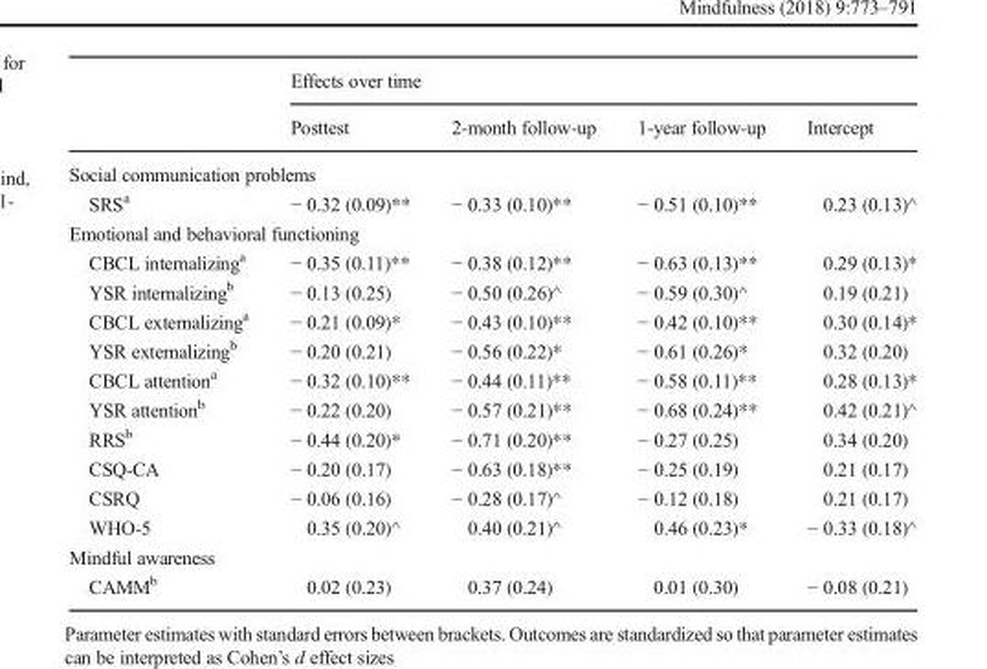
<table><thead><tr><td rowspan="2"></td><td colspan="4">Effects over time</td></tr><tr><td>Posttest</td><td>2-month follow-up</td><td>1-year follow-up</td><td>Intercept</td></tr></thead><tbody><tr><td colspan="5">Social communication problems</td></tr><tr><td>SRS<sup>a</sup></td><td>− 0.32 (0.09)**</td><td>− 0.33 (0.10)**</td><td>− 0.51 (0.10)**</td><td>0.23 (0.13)^</td></tr><tr><td colspan="5">Emotional and behavioral functioning</td></tr><tr><td>CBCL internalizing<sup>a</sup></td><td>− 0.35 (0.11)**</td><td>− 0.38 (0.12)**</td><td>− 0.63 (0.13)**</td><td>0.29 (0.13)*</td></tr><tr><td>YSR internalizing<sup>b</sup></td><td>− 0.13 (0.25)</td><td>− 0.50 (0.26)^</td><td>− 0.59 (0.30)^</td><td>0.19 (0.21)</td></tr><tr><td>CBCL externalizing<sup>a</sup></td><td>− 0.21 (0.09)*</td><td>− 0.43 (0.10)**</td><td>− 0.42 (0.10)**</td><td>0.30 (0.14)*</td></tr><tr><td>YSR externalizing<sup>b</sup></td><td>− 0.20 (0.21)</td><td>− 0.56 (0.22)*</td><td>− 0.61 (0.26)*</td><td>0.32 (0.20)</td></tr><tr><td>CBCL attention<sup>a</sup></td><td>− 0.32 (0.10)**</td><td>− 0.44 (0.11)**</td><td>− 0.58 (0.11)**</td><td>0.28 (0.13)*</td></tr><tr><td>YSR attention<sup>b</sup></td><td>− 0.22 (0.20)</td><td>− 0.57 (0.21)**</td><td>− 0.68 (0.24)**</td><td>0.42 (0.21)^</td></tr><tr><td>RRS<sup>b</sup></td><td>− 0.44 (0.20)*</td><td>− 0.71 (0.20)**</td><td>− 0.27 (0.25)</td><td>0.34 (0.20)</td></tr><tr><td>CSQ-CA</td><td>− 0.20 (0.17)</td><td>− 0.63 (0.18)**</td><td>− 0.25 (0.19)</td><td>0.21 (0.17)</td></tr><tr><td>CSRQ</td><td>− 0.06 (0.16)</td><td>− 0.28 (0.17)^</td><td>− 0.12 (0.18)</td><td>0.21 (0.17)</td></tr><tr><td>WHO-5</td><td>0.35 (0.20)^</td><td>0.40 (0.21)^</td><td>0.46 (0.23)*</td><td>− 0.33 (0.18)^</td></tr><tr><td colspan="5">Mindful awareness</td></tr><tr><td>CAMM<sup>b</sup></td><td>0.02 (0.23)</td><td>0.37 (0.24)</td><td>0.01 (0.30)</td><td>− 0.08 (0.21)</td></tr></tbody></table>